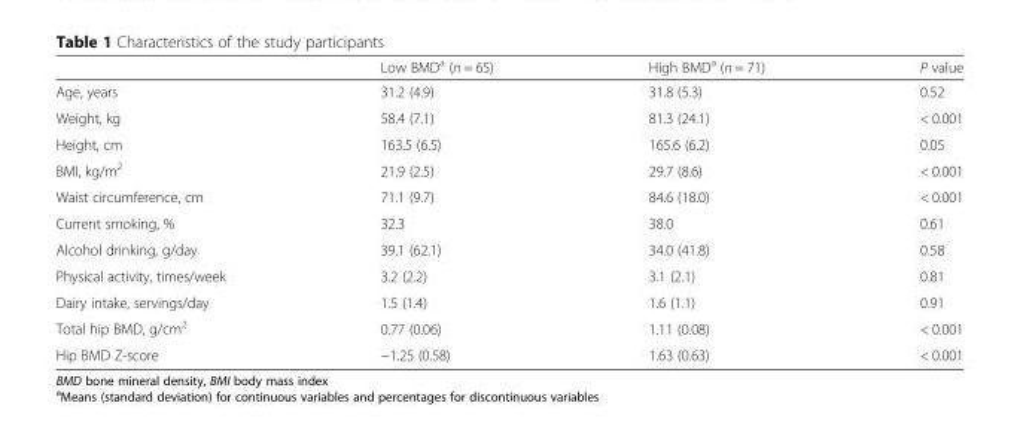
<table><thead><tr><td></td><td>Low BMD<sup>a</sup> (n = 65)</td><td>High BMD<sup>a</sup> (n = 71)</td><td>P value</td></tr></thead><tbody><tr><td>Age, years</td><td>31.2 (4.9)</td><td>31.8 (5.3)</td><td>0.52</td></tr><tr><td>Weight, kg</td><td>58.4 (7.1)</td><td>81.3 (24.1)</td><td>&lt; 0.001</td></tr><tr><td>Height, cm</td><td>163.5 (6.5)</td><td>165.6 (6.2)</td><td>0.05</td></tr><tr><td>BMI, kg/m<sup>2</sup></td><td>21.9 (2.5)</td><td>29.7 (8.6)</td><td>&lt; 0.001</td></tr><tr><td>Waist circumference, cm</td><td>71.1 (9.7)</td><td>84.6 (18.0)</td><td>&lt; 0.001</td></tr><tr><td>Current smoking, %</td><td>32.3</td><td>38.0</td><td>0.61</td></tr><tr><td>Alcohol drinking, g/day</td><td>39.1 (62.1)</td><td>34.0 (41.8)</td><td>0.58</td></tr><tr><td>Physical activity, times/week</td><td>3.2 (2.2)</td><td>3.1 (2.1)</td><td>0.81</td></tr><tr><td>Dairy intake, servings/day</td><td>1.5 (1.4)</td><td>1.6 (1.1)</td><td>0.91</td></tr><tr><td>Total hip BMD, g/cm<sup>2</sup></td><td>0.77 (0.06)</td><td>1.11 (0.08)</td><td>&lt; 0.001</td></tr><tr><td>Hip BMD Z-score</td><td>−1.25 (0.58)</td><td>1.63 (0.63)</td><td>&lt; 0.001</td></tr></tbody></table>